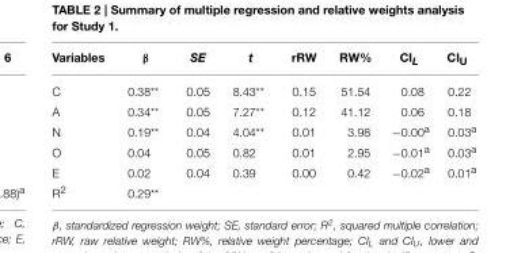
<table><thead><tr><td>Variables</td><td>β</td><td>SE</td><td>t</td><td>rRW</td><td>RW%</td><td>CI<sub>L</sub></td><td>CI<sub>U</sub></td></tr></thead><tbody><tr><td>C</td><td>0.38**</td><td>0.05</td><td>8.43**</td><td>0.15</td><td>51.54</td><td>0.08</td><td>0.22</td></tr><tr><td>A</td><td>0.34**</td><td>0.05</td><td>7.27**</td><td>0.12</td><td>41.12</td><td>0.06</td><td>0.18</td></tr><tr><td>N</td><td>0.19**</td><td>0.04</td><td>4.04**</td><td>0.01</td><td>3.98</td><td>−0.00<sup>a</sup></td><td>0.03<sup>a</sup></td></tr><tr><td>O</td><td>0.04</td><td>0.05</td><td>0.82</td><td>0.01</td><td>2.95</td><td>−0.01<sup>a</sup></td><td>0.03<sup>a</sup></td></tr><tr><td>E</td><td>0.02</td><td>0.04</td><td>0.39</td><td>0.00</td><td>0.42</td><td>−0.02<sup>a</sup></td><td>0.01<sup>a</sup></td></tr><tr><td>R<sup>2</sup></td><td>0.29**</td><td></td><td></td><td></td><td></td><td></td><td></td></tr></tbody></table>